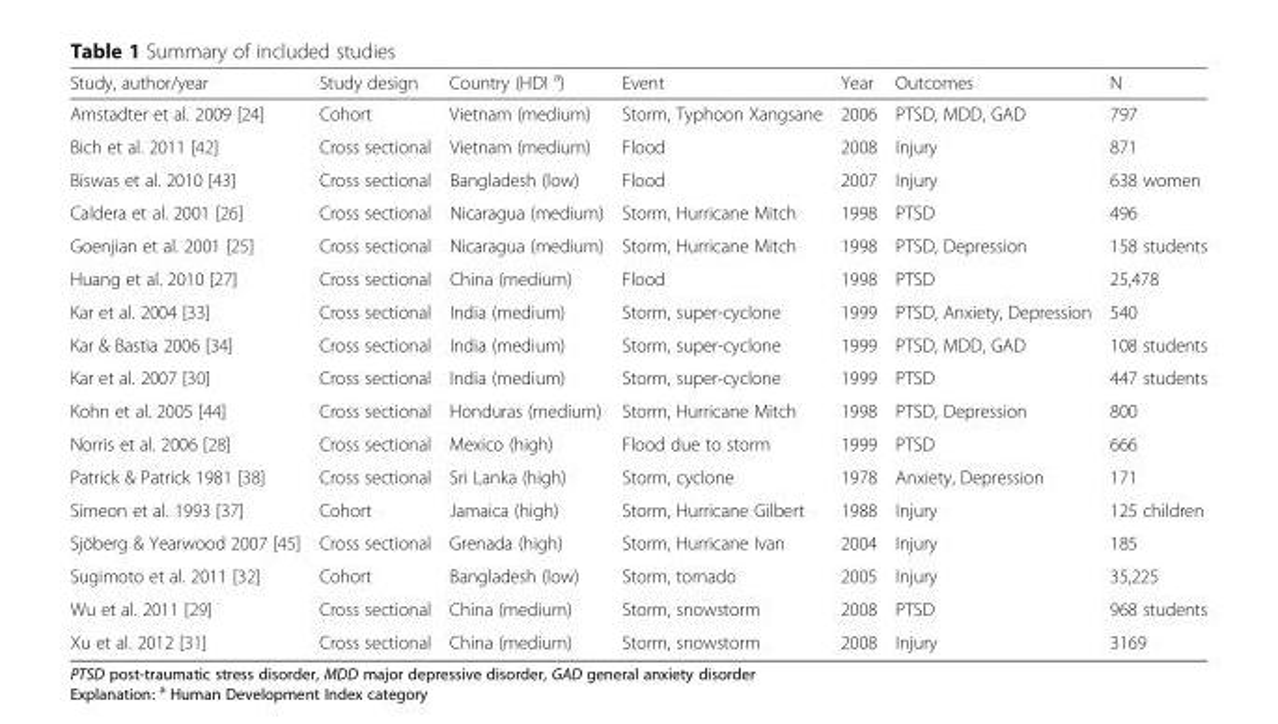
<table><thead><tr><td>Study, author/year</td><td>Study design</td><td>Country (HDI <sup>a</sup>)</td><td>Event</td><td>Year</td><td>Outcomes</td><td>N</td></tr></thead><tbody><tr><td>Amstadter et al. 2009 [24]</td><td>Cohort</td><td>Vietnam (medium)</td><td>Storm, Typhoon Xangsane</td><td>2006</td><td>PTSD, MDD, GAD</td><td>797</td></tr><tr><td>Bich et al. 2011 [42]</td><td>Cross sectional</td><td>Vietnam (medium)</td><td>Flood</td><td>2008</td><td>Injury</td><td>871</td></tr><tr><td>Biswas et al. 2010 [43]</td><td>Cross sectional</td><td>Bangladesh (low)</td><td>Flood</td><td>2007</td><td>Injury</td><td>638 women</td></tr><tr><td>Caldera et al. 2001 [26]</td><td>Cross sectional</td><td>Nicaragua (medium)</td><td>Storm, Hurricane Mitch</td><td>1998</td><td>PTSD</td><td>496</td></tr><tr><td>Goenjian et al. 2001 [25]</td><td>Cross sectional</td><td>Nicaragua (medium)</td><td>Storm, Hurricane Mitch</td><td>1998</td><td>PTSD, Depression</td><td>158 students</td></tr><tr><td>Huang et al. 2010 [27]</td><td>Cross sectional</td><td>China (medium)</td><td>Flood</td><td>1998</td><td>PTSD</td><td>25,478</td></tr><tr><td>Kar et al. 2004 [33]</td><td>Cross sectional</td><td>India (medium)</td><td>Storm, super-cyclone</td><td>1999</td><td>PTSD, Anxiety, Depression</td><td>540</td></tr><tr><td>Kar &amp; Bastia 2006 [34]</td><td>Cross sectional</td><td>India (medium)</td><td>Storm, super-cyclone</td><td>1999</td><td>PTSD, MDD, GAD</td><td>108 students</td></tr><tr><td>Kar et al. 2007 [30]</td><td>Cross sectional</td><td>India (medium)</td><td>Storm, super-cyclone</td><td>1999</td><td>PTSD</td><td>447 students</td></tr><tr><td>Kohn et al. 2005 [44]</td><td>Cross sectional</td><td>Honduras (medium)</td><td>Storm, Hurricane Mitch</td><td>1998</td><td>PTSD, Depression</td><td>800</td></tr><tr><td>Norris et al. 2006 [28]</td><td>Cross sectional</td><td>Mexico (high)</td><td>Flood due to storm</td><td>1999</td><td>PTSD</td><td>666</td></tr><tr><td>Patrick &amp; Patrick 1981 [38]</td><td>Cross sectional</td><td>Sri Lanka (high)</td><td>Storm, cyclone</td><td>1978</td><td>Anxiety, Depression</td><td>171</td></tr><tr><td>Simeon et al. 1993 [37]</td><td>Cohort</td><td>Jamaica (high)</td><td>Storm, Hurricane Gilbert</td><td>1988</td><td>Injury</td><td>125 children</td></tr><tr><td>Sjöberg &amp; Yearwood 2007 [45]</td><td>Cross sectional</td><td>Grenada (high)</td><td>Storm, Hurricane Ivan</td><td>2004</td><td>Injury</td><td>185</td></tr><tr><td>Sugimoto et al. 2011 [32]</td><td>Cohort</td><td>Bangladesh (low)</td><td>Storm, tornado</td><td>2005</td><td>Injury</td><td>35,225</td></tr><tr><td>Wu et al. 2011 [29]</td><td>Cross sectional</td><td>China (medium)</td><td>Storm, snowstorm</td><td>2008</td><td>PTSD</td><td>968 students</td></tr><tr><td>Xu et al. 2012 [31]</td><td>Cross sectional</td><td>China (medium)</td><td>Storm, snowstorm</td><td>2008</td><td>Injury</td><td>3169</td></tr></tbody></table>